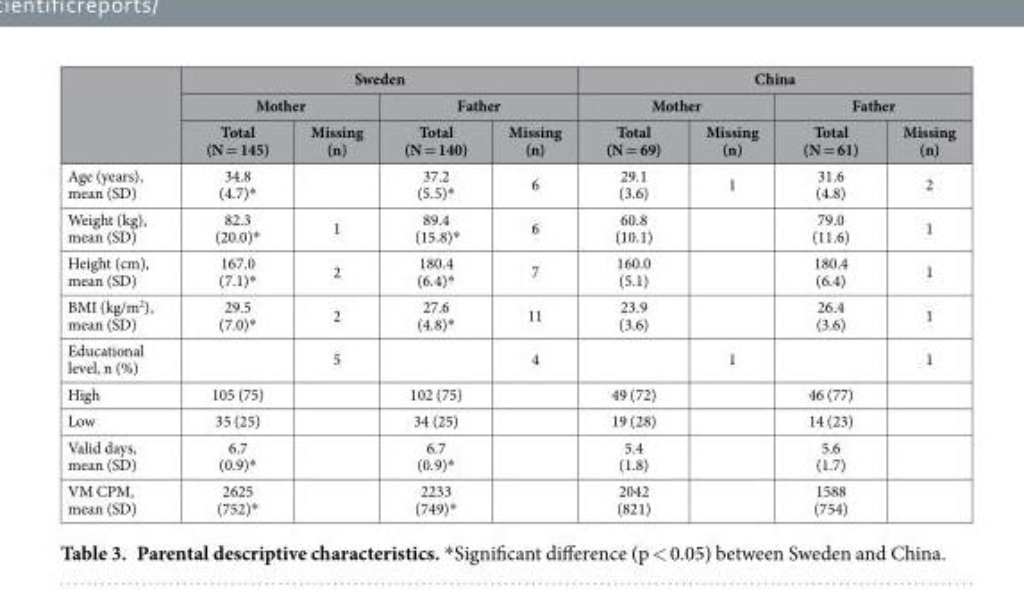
<table><thead><tr><td rowspan="3"></td><td colspan="4">Sweden</td><td colspan="4">China</td></tr><tr><td colspan="2">Mother</td><td colspan="2">Father</td><td colspan="2">Mother</td><td colspan="2">Father</td></tr><tr><td>Total (N = 145)</td><td>Missing (n)</td><td>Total (N = 140)</td><td>Missing (n)</td><td>Total (N = 69)</td><td>Missing (n)</td><td>Total (N = 61)</td><td>Missing (n)</td></tr></thead><tbody><tr><td>Age (years), mean (SD)</td><td>34.8 (4.7)*</td><td></td><td>37.2 (5.5)*</td><td>6</td><td>29.1 (3.6)</td><td>1</td><td>31.6 (4.8)</td><td>2</td></tr><tr><td>Weight (kg), mean (SD)</td><td>82.3 (20.0)*</td><td>1</td><td>89.4 (15.8)*</td><td>6</td><td>60.8 (10.1)</td><td></td><td>79.0 (11.6)</td><td>1</td></tr><tr><td>Height (cm), mean (SD)</td><td>167.0 (7.1)*</td><td>2</td><td>180.4 (6.4)*</td><td>7</td><td>160.0 (5.1)</td><td></td><td>180.4 (6.4)</td><td>1</td></tr><tr><td>BMI (kg/m<sup>2</sup>), mean (SD)</td><td>29.5 (7.0)*</td><td>2</td><td>27.6 (4.8)*</td><td>11</td><td>23.9 (3.6)</td><td></td><td>26.4 (3.6)</td><td>1</td></tr><tr><td>Educational level, n (%)</td><td></td><td>5</td><td></td><td>4</td><td></td><td>1</td><td></td><td>1</td></tr><tr><td>High</td><td>105 (75)</td><td></td><td>102 (75)</td><td></td><td>49 (72)</td><td></td><td>46 (77)</td><td></td></tr><tr><td>Low</td><td>35 (25)</td><td></td><td>34 (25)</td><td></td><td>19 (28)</td><td></td><td>14 (23)</td><td></td></tr><tr><td>Valid days, mean (SD)</td><td>6.7 (0.9)*</td><td></td><td>6.7 (0.9)*</td><td></td><td>5.4 (1.8)</td><td></td><td>5.6 (1.7)</td><td></td></tr><tr><td>VM CPM, mean (SD)</td><td>2625 (752)*</td><td></td><td>2233 (749)*</td><td></td><td>2042 (821)</td><td></td><td>1588 (754)</td><td></td></tr></tbody></table>